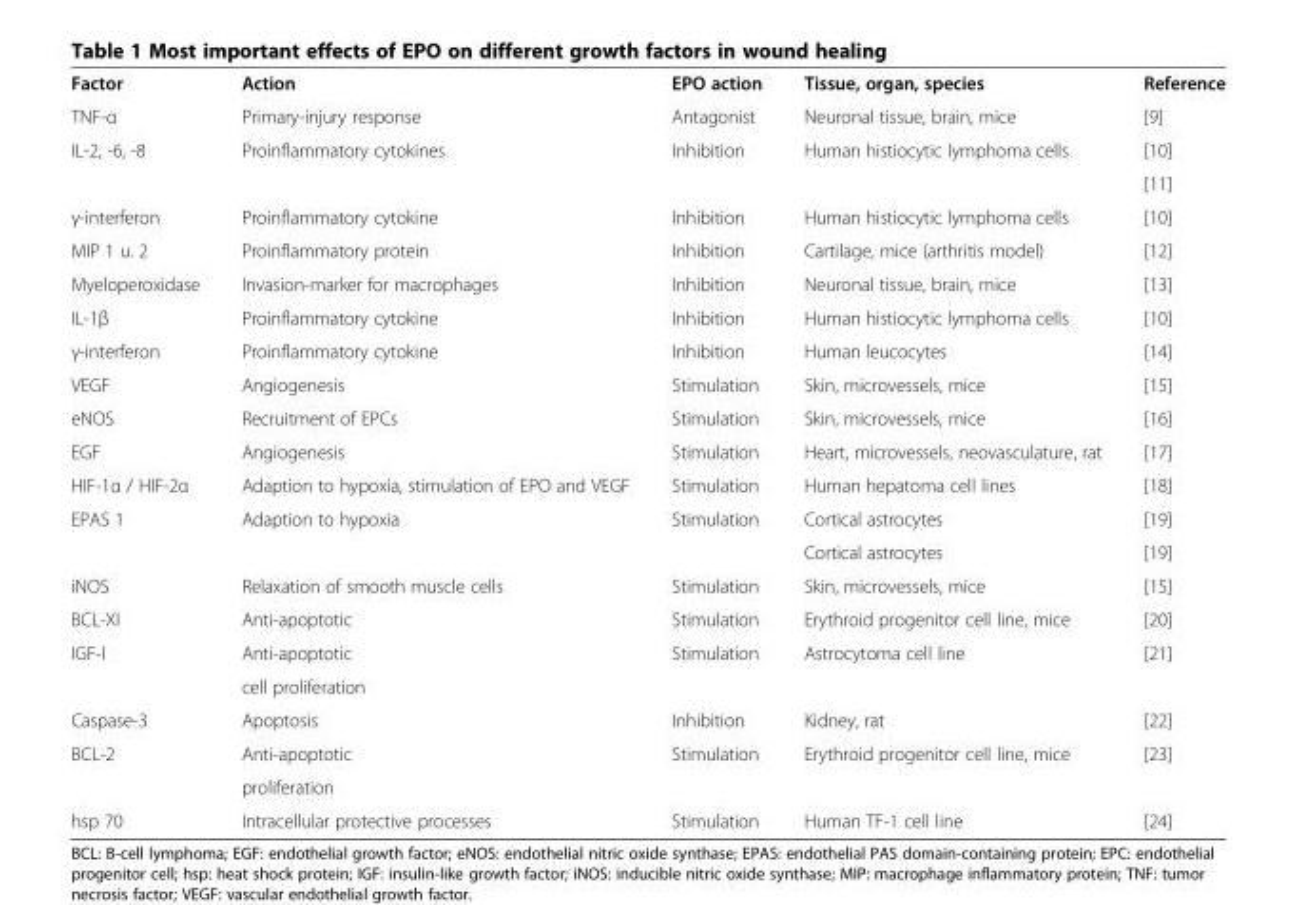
<table><tbody><tr><td>Factor</td><td>Action</td><td>EPO action</td><td>Tissue, organ, species</td><td>Reference</td></tr><tr><td>TNF-α</td><td>Primary-injury response</td><td>Antagonist</td><td>Neuronal tissue, brain, mice</td><td>[9]</td></tr><tr><td rowspan="2">IL-2, -6, -8</td><td rowspan="2">Proinflammatory cytokines</td><td rowspan="2">Inhibition</td><td rowspan="2">Human histiocytic lymphoma cells</td><td>[10]</td></tr><tr><td>[11]</td></tr><tr><td>γ-interferon</td><td>Proinflammatory cytokine</td><td>Inhibition</td><td>Human histiocytic lymphoma cells</td><td>[10]</td></tr><tr><td>MIP 1 u. 2</td><td>Proinflammatory protein</td><td>Inhibition</td><td>Cartilage, mice (arthritis model)</td><td>[12]</td></tr><tr><td>Myeloperoxidase</td><td>Invasion-marker for macrophages</td><td>Inhibition</td><td>Neuronal tissue, brain, mice</td><td>[13]</td></tr><tr><td>IL-1β</td><td>Proinflammatory cytokine</td><td>Inhibition</td><td>Human histiocytic lymphoma cells</td><td>[10]</td></tr><tr><td>γ-interferon</td><td>Proinflammatory cytokine</td><td>Inhibition</td><td>Human leucocytes</td><td>[14]</td></tr><tr><td>VEGF</td><td>Angiogenesis</td><td>Stimulation</td><td>Skin, microvessels, mice</td><td>[15]</td></tr><tr><td>eNOS</td><td>Recruitment of EPCs</td><td>Stimulation</td><td>Skin, microvessels, mice</td><td>[16]</td></tr><tr><td>EGF</td><td>Angiogenesis</td><td>Stimulation</td><td>Heart, microvessels, neovasculature, rat</td><td>[17]</td></tr><tr><td>HIF-1α / HIF-2α</td><td>Adaption to hypoxia, stimulation of EPO and VEGF</td><td>Stimulation</td><td>Human hepatoma cell lines</td><td>[18]</td></tr><tr><td rowspan="2">EPAS 1</td><td rowspan="2">Adaption to hypoxia</td><td rowspan="2">Stimulation</td><td>Cortical astrocytes</td><td>[19]</td></tr><tr><td>Cortical astrocytes</td><td>[19]</td></tr><tr><td>iNOS</td><td>Relaxation of smooth muscle cells</td><td>Stimulation</td><td>Skin, microvessels, mice</td><td>[15]</td></tr><tr><td>BCL-Xl</td><td>Anti-apoptotic</td><td>Stimulation</td><td>Erythroid progenitor cell line, mice</td><td>[20]</td></tr><tr><td rowspan="2">IGF-I</td><td>Anti-apoptotic</td><td rowspan="2">Stimulation</td><td rowspan="2">Astrocytoma cell line</td><td rowspan="2">[21]</td></tr><tr><td>cell proliferation</td></tr><tr><td>Caspase-3</td><td>Apoptosis</td><td>Inhibition</td><td>Kidney, rat</td><td>[22]</td></tr><tr><td rowspan="2">BCL-2</td><td>Anti-apoptotic</td><td rowspan="2">Stimulation</td><td rowspan="2">Erythroid progenitor cell line, mice</td><td rowspan="2">[23]</td></tr><tr><td>proliferation</td></tr><tr><td>hsp 70</td><td>Intracellular protective processes</td><td>Stimulation</td><td>Human TF-1 cell line</td><td>[24]</td></tr></tbody></table>